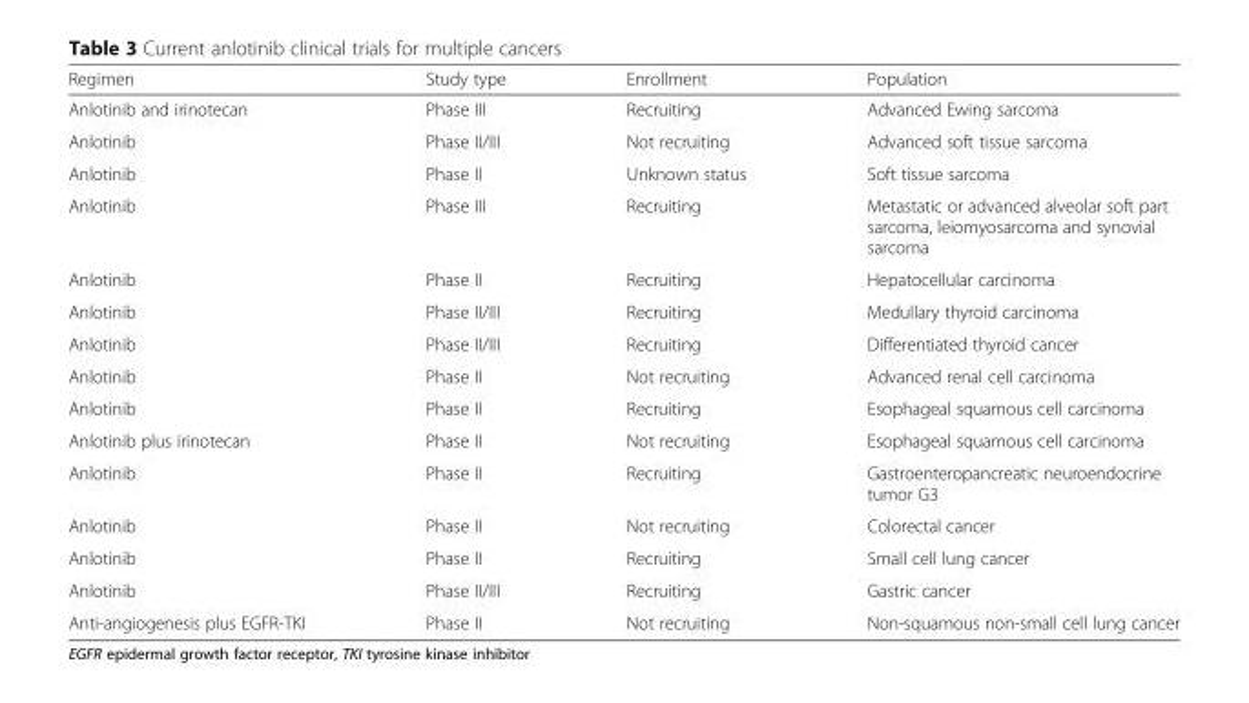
<table><thead><tr><td>Regimen</td><td>Study type</td><td>Enrollment</td><td>Population</td></tr></thead><tbody><tr><td>Anlotinib and irinotecan</td><td>Phase III</td><td>Recruiting</td><td>Advanced Ewing sarcoma</td></tr><tr><td>Anlotinib</td><td>Phase II/III</td><td>Not recruiting</td><td>Advanced soft tissue sarcoma</td></tr><tr><td>Anlotinib</td><td>Phase II</td><td>Unknown status</td><td>Soft tissue sarcoma</td></tr><tr><td>Anlotinib</td><td>Phase III</td><td>Recruiting</td><td>Metastatic or advanced alveolar soft part sarcoma, leiomyosarcoma and synovial sarcoma</td></tr><tr><td>Anlotinib</td><td>Phase II</td><td>Recruiting</td><td>Hepatocellular carcinoma</td></tr><tr><td>Anlotinib</td><td>Phase II/III</td><td>Recruiting</td><td>Medullary thyroid carcinoma</td></tr><tr><td>Anlotinib</td><td>Phase II/III</td><td>Recruiting</td><td>Differentiated thyroid cancer</td></tr><tr><td>Anlotinib</td><td>Phase II</td><td>Not recruiting</td><td>Advanced renal cell carcinoma</td></tr><tr><td>Anlotinib</td><td>Phase II</td><td>Recruiting</td><td>Esophageal squamous cell carcinoma</td></tr><tr><td>Anlotinib plus irinotecan</td><td>Phase II</td><td>Not recruiting</td><td>Esophageal squamous cell carcinoma</td></tr><tr><td>Anlotinib</td><td>Phase II</td><td>Recruiting</td><td>Gastroenteropancreatic neuroendocrine tumor G3</td></tr><tr><td>Anlotinib</td><td>Phase II</td><td>Not recruiting</td><td>Colorectal cancer</td></tr><tr><td>Anlotinib</td><td>Phase II</td><td>Recruiting</td><td>Small cell lung cancer</td></tr><tr><td>Anlotinib</td><td>Phase II/III</td><td>Recruiting</td><td>Gastric cancer</td></tr><tr><td>Anti-angiogenesis plus EGFR-TKI</td><td>Phase II</td><td>Not recruiting</td><td>Non-squamous non-small cell lung cancer</td></tr></tbody></table>